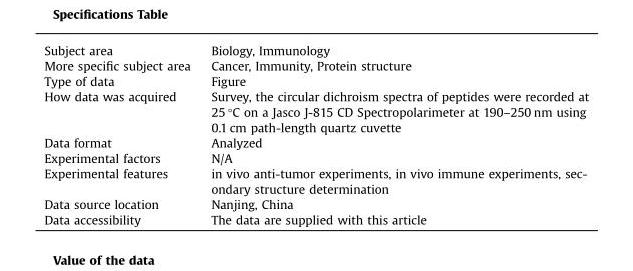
<table><tbody><tr><td>Subject area</td><td>Biology, Immunology</td></tr><tr><td>More specific subject area</td><td>Cancer, Immunity, Protein structure</td></tr><tr><td>Type of data</td><td>Figure</td></tr><tr><td>How data was acquired</td><td>Survey, the circular dichroism spectra of peptides were recorded at 25 °C on a Jasco J-815 CD Spectropolarimeter at 190–250 nm using 0.1 cm path-length quartz cuvette</td></tr><tr><td>Data format</td><td>Analyzed</td></tr><tr><td>Experimental factors</td><td>N/A</td></tr><tr><td>Experimental features</td><td>in vivo anti-tumor experiments, in vivo immune experiments, sec- ondary structure determination</td></tr><tr><td>Data source location</td><td>Nanjing, China</td></tr><tr><td>Data accessibility</td><td>The data are supplied with this article</td></tr></tbody></table>